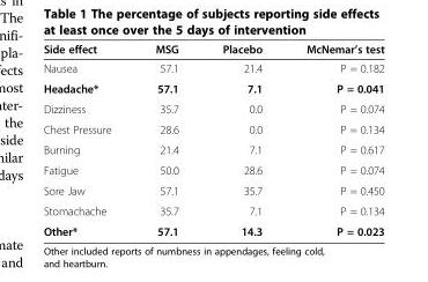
<table><thead><tr><td>Side effect</td><td>MSG</td><td>Placebo</td><td>McNemar’s test</td></tr></thead><tbody><tr><td>Nausea</td><td>57.1</td><td>21.4</td><td>P = 0.182</td></tr><tr><td>Headache*</td><td>57.1</td><td>7.1</td><td>P = 0.041</td></tr><tr><td>Dizziness</td><td>35.7</td><td>0.0</td><td>P = 0.074</td></tr><tr><td>Chest Pressure</td><td>28.6</td><td>0.0</td><td>P = 0.134</td></tr><tr><td>Burning</td><td>21.4</td><td>7.1</td><td>P = 0.617</td></tr><tr><td>Fatigue</td><td>50.0</td><td>28.6</td><td>P = 0.074</td></tr><tr><td>Sore Jaw</td><td>57.1</td><td>35.7</td><td>P = 0.450</td></tr><tr><td>Stomachache</td><td>35.7</td><td>7.1</td><td>P = 0.134</td></tr><tr><td>Other*</td><td>57.1</td><td>14.3</td><td>P = 0.023</td></tr></tbody></table>